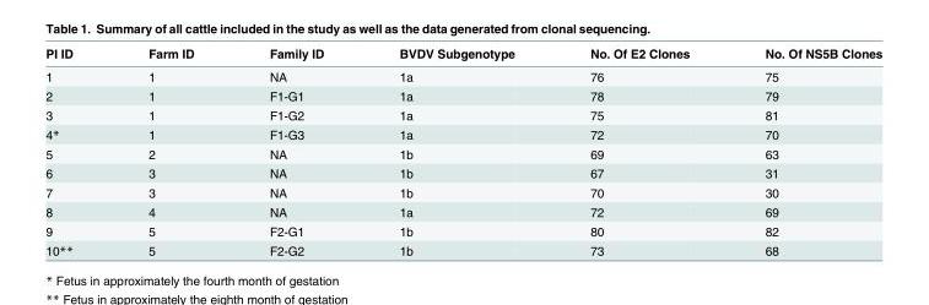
<table><thead><tr><td>PI ID</td><td>Farm ID</td><td>Family ID</td><td>BVDV Subgenotype</td><td>No. Of E2 Clones</td><td>No. Of NS5B Clones</td></tr></thead><tbody><tr><td>1</td><td>1</td><td>NA</td><td>1a</td><td>76</td><td>75</td></tr><tr><td>2</td><td>1</td><td>F1-G1</td><td>1a</td><td>78</td><td>79</td></tr><tr><td>3</td><td>1</td><td>F1-G2</td><td>1a</td><td>75</td><td>81</td></tr><tr><td>4*</td><td>1</td><td>F1-G3</td><td>1a</td><td>72</td><td>70</td></tr><tr><td>5</td><td>2</td><td>NA</td><td>1b</td><td>69</td><td>63</td></tr><tr><td>6</td><td>3</td><td>NA</td><td>1b</td><td>67</td><td>31</td></tr><tr><td>7</td><td>3</td><td>NA</td><td>1b</td><td>70</td><td>30</td></tr><tr><td>8</td><td>4</td><td>NA</td><td>1a</td><td>72</td><td>69</td></tr><tr><td>9</td><td>5</td><td>F2-G1</td><td>1b</td><td>80</td><td>82</td></tr><tr><td>10**</td><td>5</td><td>F2-G2</td><td>1b</td><td>73</td><td>68</td></tr></tbody></table>